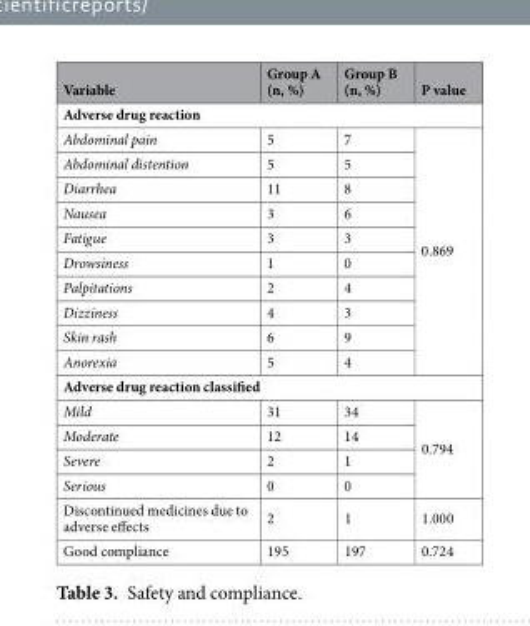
<table><thead><tr><td>Variable</td><td>Group A (n, %)</td><td>Group B (n, %)</td><td>P value</td></tr></thead><tbody><tr><td colspan="4">Adverse drug reaction</td></tr><tr><td>Abdominal pain</td><td>5</td><td>7</td><td rowspan="10">0.869</td></tr><tr><td>Abdominal distention</td><td>5</td><td>5</td></tr><tr><td>Diarrhea</td><td>11</td><td>8</td></tr><tr><td>Nausea</td><td>3</td><td>6</td></tr><tr><td>Fatigue</td><td>3</td><td>3</td></tr><tr><td>Drowsiness</td><td>1</td><td>0</td></tr><tr><td>Palpitations</td><td>2</td><td>4</td></tr><tr><td>Dizziness</td><td>4</td><td>3</td></tr><tr><td>Skin rash</td><td>6</td><td>9</td></tr><tr><td>Anorexia</td><td>5</td><td>4</td></tr><tr><td colspan="4">Adverse drug reaction classified</td></tr><tr><td>Mild</td><td>31</td><td>34</td><td rowspan="4">0.794</td></tr><tr><td>Moderate</td><td>12</td><td>14</td></tr><tr><td>Severe</td><td>2</td><td>1</td></tr><tr><td>Serious</td><td>0</td><td>0</td></tr><tr><td>Discontinued medicines due to adverse effects</td><td>2</td><td>1</td><td>1.000</td></tr><tr><td>Good compliance</td><td>195</td><td>197</td><td>0.724</td></tr></tbody></table>